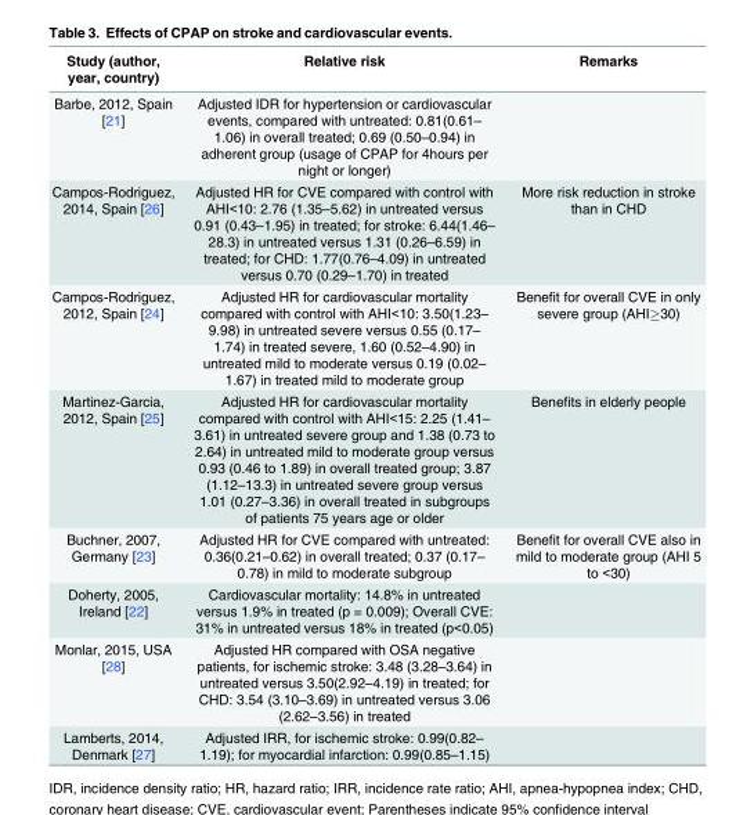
<table><thead><tr><td>Study (author, year, country)</td><td>Relative risk</td><td>Remarks</td></tr></thead><tbody><tr><td>Barbe, 2012, Spain [21]</td><td>Adjusted IDR for hypertension or cardiovascular events, compared with untreated: 0.81(0.61– 1.06) in overall treated; 0.69 (0.50–0.94) in adherent group (usage of CPAP for 4hours per night or longer)</td><td></td></tr><tr><td>Campos-Rodriguez, 2014, Spain [26]</td><td>Adjusted HR for CVE compared with control with AHI&lt;10: 2.76 (1.35–5.62) in untreated versus 0.91 (0.43–1.95) in treated; for stroke: 6.44(1.46– 28.3) in untreated versus 1.31 (0.26–6.59) in treated; for CHD: 1.77(0.76–4.09) in untreated versus 0.70 (0.29–1.70) in treated</td><td>More risk reduction in stroke than in CHD</td></tr><tr><td>Campos-Rodriguez, 2012, Spain [24]</td><td>Adjusted HR for cardiovascular mortality compared with control with AHI&lt;10: 3.50(1.23– 9.98) in untreated severe versus 0.55 (0.17– 1.74) in treated severe, 1.60 (0.52–4.90) in untreated mild to moderate versus 0.19 (0.02– 1.67) in treated mild to moderate group</td><td>Benefit for overall CVE in only severe group (AHI≥30)</td></tr><tr><td>Martinez-Garcia, 2012, Spain [25]</td><td>Adjusted HR for cardiovascular mortality compared with control with AHI&lt;15: 2.25 (1.41– 3.61) in untreated severe group and 1.38 (0.73 to 2.64) in untreated mild to moderate group versus 0.93 (0.46 to 1.89) in overall treated group; 3.87 (1.12–13.3) in untreated severe group versus 1.01 (0.27–3.36) in overall treated in subgroups of patients 75 years age or older</td><td>Benefits in elderly people</td></tr><tr><td>Buchner, 2007, Germany [23]</td><td>Adjusted HR for CVE compared with untreated: 0.36(0.21–0.62) in overall treated; 0.37 (0.17– 0.78) in mild to moderate subgroup</td><td>Benefit for overall CVE also in mild to moderate group (AHI 5 to &lt;30)</td></tr><tr><td>Doherty, 2005, Ireland [22]</td><td>Cardiovascular mortality: 14.8% in untreated versus 1.9% in treated (p = 0.009); Overall CVE: 31% in untreated versus 18% in treated (p&lt;0.05)</td><td></td></tr><tr><td>Monlar, 2015, USA [28]</td><td>Adjusted HR compared with OSA negative patients, for ischemic stroke: 3.48 (3.28–3.64) in untreated versus 3.50(2.92–4.19) in treated; for CHD: 3.54 (3.10–3.69) in untreated versus 3.06 (2.62–3.56) in treated</td><td></td></tr><tr><td>Lamberts, 2014, Denmark [27]</td><td>Adjusted IRR, for ischemic stroke: 0.99(0.82– 1.19); for myocardial infarction: 0.99(0.85–1.15)</td><td></td></tr></tbody></table>